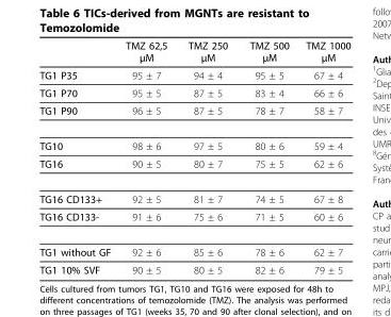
<table><thead><tr><td></td><td>TMZ 62,5 μM</td><td>TMZ 250 μM</td><td>TMZ 500 μM</td><td>TMZ 1000 μM</td></tr></thead><tbody><tr><td>TG1 P35</td><td>95 ± 7</td><td>94 ± 4</td><td>95 ± 5</td><td>67 ± 4</td></tr><tr><td>TG1 P70</td><td>95 ± 5</td><td>87 ± 5</td><td>83 ± 4</td><td>66 ± 6</td></tr><tr><td>TG1 P90</td><td>96 ± 5</td><td>87 ± 5</td><td>78 ± 7</td><td>58 ± 7</td></tr><tr><td>TG10</td><td>98 ± 6</td><td>97 ± 5</td><td>80 ± 6</td><td>59 ± 4</td></tr><tr><td>TG16</td><td>90 ± 5</td><td>80 ± 7</td><td>75 ± 5</td><td>62 ± 6</td></tr><tr><td>TG16 CD133+</td><td>92 ± 5</td><td>81 ± 7</td><td>74 ± 5</td><td>67 ± 8</td></tr><tr><td>TG16 CD133-</td><td>91 ± 6</td><td>75 ± 6</td><td>71 ± 5</td><td>60 ± 6</td></tr><tr><td>TG1 without GF</td><td>92 ± 6</td><td>85 ± 6</td><td>78 ± 6</td><td>62 ± 7</td></tr><tr><td>TG1 10% SVF</td><td>90 ± 5</td><td>80 ± 5</td><td>82 ± 6</td><td>79 ± 5</td></tr></tbody></table>